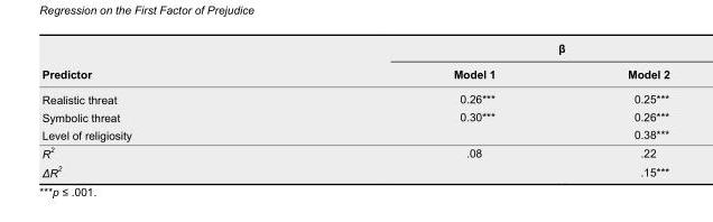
<table><thead><tr><td rowspan="2">Predictor</td><td colspan="2">β</td></tr><tr><td>Model 1</td><td>Model 2</td></tr></thead><tbody><tr><td>Realistic threat</td><td>0.26***</td><td>0.25***</td></tr><tr><td>Symbolic threat</td><td>0.30***</td><td>0.26***</td></tr><tr><td>Level of religiosity</td><td></td><td>0.38***</td></tr><tr><td>R <sup>2</sup></td><td>.08</td><td>.22</td></tr><tr><td>ΔR <sup>2</sup></td><td></td><td>.15***</td></tr></tbody></table>